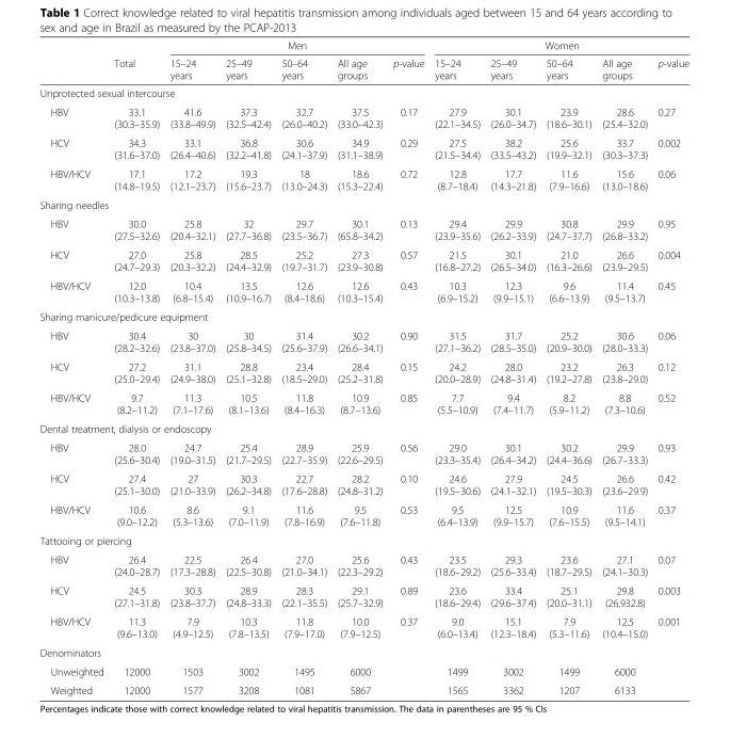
<table><thead><tr><td rowspan="2"></td><td rowspan="2">Total</td><td colspan="5">Men</td><td colspan="5">Women</td></tr><tr><td>15–24 years</td><td>25–49 years</td><td>50–64 years</td><td>All age groups</td><td>p-value</td><td>15–24 years</td><td>25–49 years</td><td>50–64 years</td><td>All age groups</td><td>p-value</td></tr></thead><tbody><tr><td colspan="12">Unprotected sexual intercourse</td></tr><tr><td>HBV</td><td>33.1 (30.3–35.9)</td><td>41.6 (33.8–49.9)</td><td>37.3 (32.5–42.4)</td><td>32.7 (26.0–40.2)</td><td>37.5 (33.0–42.3)</td><td>0.17</td><td>27.9 (22.1–34.5)</td><td>30.1 (26.0–34.7)</td><td>23.9 (18.6–30.1)</td><td>28.6 (25.4–32.0)</td><td>0.27</td></tr><tr><td>HCV</td><td>34.3 (31.6–37.0)</td><td>33.1 (26.4–40.6)</td><td>36.8 (32.2–41.8)</td><td>30.6 (24.1–37.9)</td><td>34.9 (31.1–38.9)</td><td>0.29</td><td>27.5 (21.5–34.4)</td><td>38.2 (33.5–43.2)</td><td>25.6 (19.9–32.1)</td><td>33.7 (30.3–37.3)</td><td>0.002</td></tr><tr><td>HBV/HCV</td><td>17.1 (14.8–19.5)</td><td>17.2 (12.1–23.7)</td><td>19.3 (15.6–23.7)</td><td>18 (13.0–24.3)</td><td>18.6 (15.3–22.4)</td><td>0.72</td><td>12.8 (8.7–18.4)</td><td>17.7 (14.3–21.8)</td><td>11.6 (7.9–16.6)</td><td>15.6 (13.0–18.6)</td><td>0.06</td></tr><tr><td colspan="12">Sharing needles</td></tr><tr><td>HBV</td><td>30.0 (27.5–32.6)</td><td>25.8 (20.4–32.1)</td><td>32 (27.7–36.8)</td><td>29.7 (23.5–36.7)</td><td>30.1 (65.8–34.2)</td><td>0.13</td><td>29.4 (23.9–35.6)</td><td>29.9 (26.2–33.9)</td><td>30.8 (24.7–37.7)</td><td>29.9 (26.8–33.2)</td><td>0.95</td></tr><tr><td>HCV</td><td>27.0 (24.7–29.3)</td><td>25.8 (20.3–32.2)</td><td>28.5 (24.4–32.9)</td><td>25.2 (19.7–31.7)</td><td>27.3 (23.9–30.8)</td><td>0.57</td><td>21.5 (16.8–27.2)</td><td>30.1 (26.5–34.0)</td><td>21.0 (16.3–26.6)</td><td>26.6 (23.9–29.5)</td><td>0.004</td></tr><tr><td>HBV/HCV</td><td>12.0 (10.3–13.8)</td><td>10.4 (6.8–15.4)</td><td>13.5 (10.9–16.7)</td><td>12.6 (8.4–18.6)</td><td>12.6 (10.3–15.4)</td><td>0.43</td><td>10.3 (6.9–15.2)</td><td>12.3 (9.9–15.1)</td><td>9.6 (6.6–13.9)</td><td>11.4 (9.5–13.7)</td><td>0.45</td></tr><tr><td colspan="12">Sharing manicure/pedicure equipment</td></tr><tr><td>HBV</td><td>30.4 (28.2–32.6)</td><td>30 (23.8–37.0)</td><td>30 (25.8–34.5)</td><td>31.4 (25.6–37.9)</td><td>30.2 (26.6–34.1)</td><td>0.90</td><td>31.5 (27.1–36.2)</td><td>31.7 (28.5–35.0)</td><td>25.2 (20.9–30.0)</td><td>30.6 (28.0–33.3)</td><td>0.06</td></tr><tr><td>HCV</td><td>27.2 (25.0–29.4)</td><td>31.1 (24.9–38.0)</td><td>28.8 (25.1–32.8)</td><td>23.4 (18.5–29.0)</td><td>28.4 (25.2–31.8)</td><td>0.15</td><td>24.2 (20.0–28.9)</td><td>28.0 (24.8–31.4)</td><td>23.2 (19.2–27.8)</td><td>26.3 (23.8–29.0)</td><td>0.12</td></tr><tr><td>HBV/HCV</td><td>9.7 (8.2–11.2)</td><td>11.3 (7.1–17.6)</td><td>10.5 (8.1–13.6)</td><td>11.8 (8.4–16.3)</td><td>10.9 (8.7–13.6)</td><td>0.85</td><td>7.7 (5.5–10.9)</td><td>9.4 (7.4–11.7)</td><td>8.2 (5.9–11.2)</td><td>8.8 (7.3–10.6)</td><td>0.52</td></tr><tr><td colspan="12">Dental treatment, dialysis or endoscopy</td></tr><tr><td>HBV</td><td>28.0 (25.6–30.4)</td><td>24.7 (19.0–31.5)</td><td>25.4 (21.7–29.5)</td><td>28.9 (22.7–35.9)</td><td>25.9 (22.6–29.5)</td><td>0.56</td><td>29.0 (23.3–35.4)</td><td>30.1 (26.4–34.2)</td><td>30.2 (24.4–36.6)</td><td>29.9 (26.7–33.3)</td><td>0.93</td></tr><tr><td>HCV</td><td>27.4 (25.1–30.0)</td><td>27 (21.0–33.9)</td><td>30.3 (26.2–34.8)</td><td>22.7 (17.6–28.8)</td><td>28.2 (24.8–31.2)</td><td>0.10</td><td>24.6 (19.5–30.6)</td><td>27.9 (24.1–32.1)</td><td>24.5 (19.5–30.3)</td><td>26.6 (23.6–29.9)</td><td>0.42</td></tr><tr><td>HBV/HCV</td><td>10.6 (9.0–12.2)</td><td>8.6 (5.3–13.6)</td><td>9.1 (7.0–11.9)</td><td>11.6 (7.8–16.9)</td><td>9.5 (7.6–11.8)</td><td>0.53</td><td>9.5 (6.4–13.9)</td><td>12.5 (9.9–15.7)</td><td>10.9 (7.6–15.5)</td><td>11.6 (9.5–14.1)</td><td>0.37</td></tr><tr><td colspan="12">Tattooing or piercing</td></tr><tr><td>HBV</td><td>26.4 (24.0–28.7)</td><td>22.5 (17.3–28.8)</td><td>26.4 (22.5–30.8)</td><td>27.0 (21.0–34.1)</td><td>25.6 (22.3–29.2)</td><td>0.43</td><td>23.5 (18.6–29.2)</td><td>29.3 (25.6–33.4)</td><td>23.6 (18.7–29.5)</td><td>27.1 (24.1–30.3)</td><td>0.07</td></tr><tr><td>HCV</td><td>24.5 (27.1–31.8)</td><td>30.3 (23.8–37.7)</td><td>28.9 (24.8–33.3)</td><td>28.3 (22.1–35.5)</td><td>29.1 (25.7–32.9)</td><td>0.89</td><td>23.6 (18.6–29.4)</td><td>33.4 (29.6–37.4)</td><td>25.1 (20.0–31.1)</td><td>29.8 (26.932.8)</td><td>0.003</td></tr><tr><td>HBV/HCV</td><td>11.3 (9.6–13.0)</td><td>7.9 (4.9–12.5)</td><td>10.3 (7.8–13.5)</td><td>11.8 (7.9–17.0)</td><td>10.0 (7.9–12.5)</td><td>0.37</td><td>9.0 (6.0–13.4)</td><td>15.1 (12.3–18.4)</td><td>7.9 (5.3–11.6)</td><td>12.5 (10.4–15.0)</td><td>0.001</td></tr><tr><td colspan="12">Denominators</td></tr><tr><td>Unweighted</td><td>12000</td><td>1503</td><td>3002</td><td>1495</td><td>6000</td><td></td><td>1499</td><td>3002</td><td>1499</td><td>6000</td><td></td></tr><tr><td>Weighted</td><td>12000</td><td>1577</td><td>3208</td><td>1081</td><td>5867</td><td></td><td>1565</td><td>3362</td><td>1207</td><td>6133</td><td></td></tr></tbody></table>